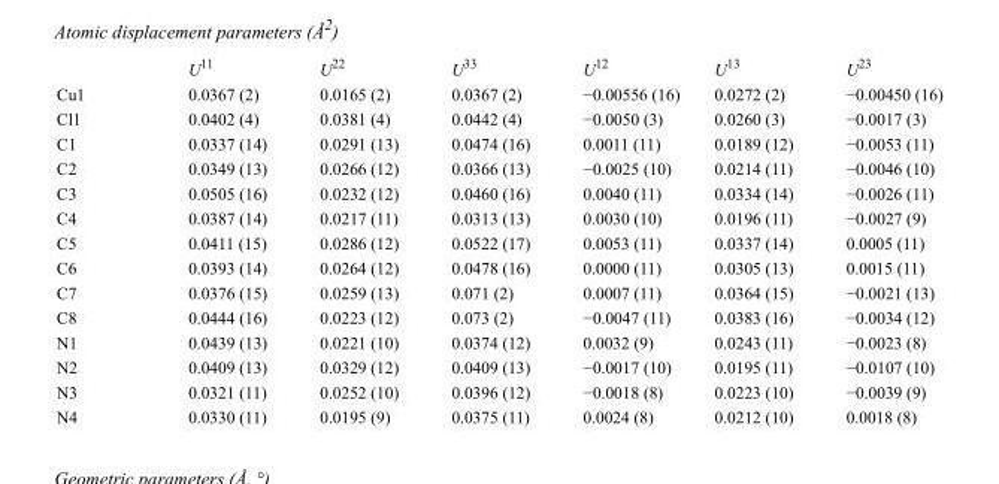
<table><thead><tr><td></td><td>U<sup>11</sup></td><td>U<sup>22</sup></td><td>U<sup>33</sup></td><td>U<sup>12</sup></td><td>U<sup>13</sup></td><td>U<sup>23</sup></td></tr></thead><tbody><tr><td>Cu1</td><td>0.0367 (2)</td><td>0.0165 (2)</td><td>0.0367 (2)</td><td>−0.00556 (16)</td><td>0.0272 (2)</td><td>−0.00450 (16)</td></tr><tr><td>Cl1</td><td>0.0402 (4)</td><td>0.0381 (4)</td><td>0.0442 (4)</td><td>−0.0050 (3)</td><td>0.0260 (3)</td><td>−0.0017 (3)</td></tr><tr><td>C1</td><td>0.0337 (14)</td><td>0.0291 (13)</td><td>0.0474 (16)</td><td>0.0011 (11)</td><td>0.0189 (12)</td><td>−0.0053 (11)</td></tr><tr><td>C2</td><td>0.0349 (13)</td><td>0.0266 (12)</td><td>0.0366 (13)</td><td>−0.0025 (10)</td><td>0.0214 (11)</td><td>−0.0046 (10)</td></tr><tr><td>C3</td><td>0.0505 (16)</td><td>0.0232 (12)</td><td>0.0460 (16)</td><td>0.0040 (11)</td><td>0.0334 (14)</td><td>−0.0026 (11)</td></tr><tr><td>C4</td><td>0.0387 (14)</td><td>0.0217 (11)</td><td>0.0313 (13)</td><td>0.0030 (10)</td><td>0.0196 (11)</td><td>−0.0027 (9)</td></tr><tr><td>C5</td><td>0.0411 (15)</td><td>0.0286 (12)</td><td>0.0522 (17)</td><td>0.0053 (11)</td><td>0.0337 (14)</td><td>0.0005 (11)</td></tr><tr><td>C6</td><td>0.0393 (14)</td><td>0.0264 (12)</td><td>0.0478 (16)</td><td>0.0000 (11)</td><td>0.0305 (13)</td><td>0.0015 (11)</td></tr><tr><td>C7</td><td>0.0376 (15)</td><td>0.0259 (13)</td><td>0.071 (2)</td><td>0.0007 (11)</td><td>0.0364 (15)</td><td>−0.0021 (13)</td></tr><tr><td>C8</td><td>0.0444 (16)</td><td>0.0223 (12)</td><td>0.073 (2)</td><td>−0.0047 (11)</td><td>0.0383 (16)</td><td>−0.0034 (12)</td></tr><tr><td>N1</td><td>0.0439 (13)</td><td>0.0221 (10)</td><td>0.0374 (12)</td><td>0.0032 (9)</td><td>0.0243 (11)</td><td>−0.0023 (8)</td></tr><tr><td>N2</td><td>0.0409 (13)</td><td>0.0329 (12)</td><td>0.0409 (13)</td><td>−0.0017 (10)</td><td>0.0195 (11)</td><td>−0.0107 (10)</td></tr><tr><td>N3</td><td>0.0321 (11)</td><td>0.0252 (10)</td><td>0.0396 (12)</td><td>−0.0018 (8)</td><td>0.0223 (10)</td><td>−0.0039 (9)</td></tr><tr><td>N4</td><td>0.0330 (11)</td><td>0.0195 (9)</td><td>0.0375 (11)</td><td>0.0024 (8)</td><td>0.0212 (10)</td><td>0.0018 (8)</td></tr></tbody></table>